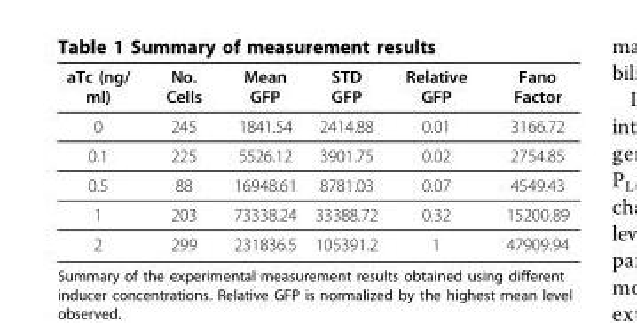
<table><thead><tr><td>aTc (ng/ ml)</td><td>No. Cells</td><td>Mean GFP</td><td>STD GFP</td><td>Relative GFP</td><td>Fano Factor</td></tr></thead><tbody><tr><td>0</td><td>245</td><td>1841.54</td><td>2414.88</td><td>0.01</td><td>3166.72</td></tr><tr><td>0.1</td><td>225</td><td>5526.12</td><td>3901.75</td><td>0.02</td><td>2754.85</td></tr><tr><td>0.5</td><td>88</td><td>16948.61</td><td>8781.03</td><td>0.07</td><td>4549.43</td></tr><tr><td>1</td><td>203</td><td>73338.24</td><td>33388.72</td><td>0.32</td><td>15200.89</td></tr><tr><td>2</td><td>299</td><td>231836.5</td><td>105391.2</td><td>1</td><td>47909.94</td></tr></tbody></table>